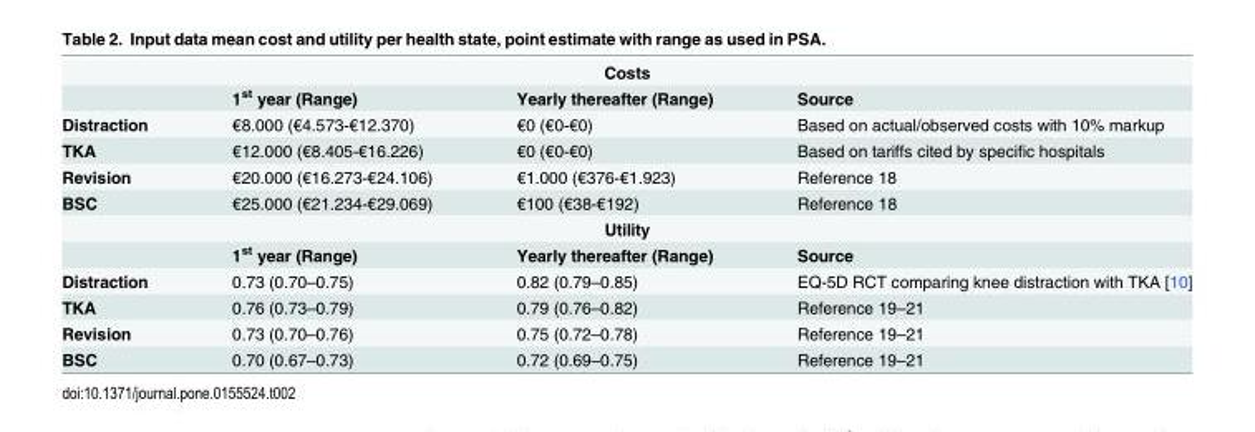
<table><tbody><tr><td colspan="4">Costs</td></tr><tr><td></td><td>1<sup>st</sup> year (Range)</td><td>Yearly thereafter (Range)</td><td>Source</td></tr><tr><td>Distraction</td><td>€8.000 (€4.573-€12.370)</td><td>€0 (€0-€0)</td><td>Based on actual/observed costs with 10% markup</td></tr><tr><td>TKA</td><td>€12.000 (€8.405-€16.226)</td><td>€0 (€0-€0)</td><td>Based on tariffs cited by specific hospitals</td></tr><tr><td>Revision</td><td>€20.000 (€16.273-€24.106)</td><td>€1.000 (€376-€1.923)</td><td>Reference 18</td></tr><tr><td>BSC</td><td>€25.000 (€21.234-€29.069)</td><td>€100 (€38-€192)</td><td>Reference 18</td></tr><tr><td colspan="4">Utility</td></tr><tr><td></td><td>1<sup>st</sup> year (Range)</td><td>Yearly thereafter (Range)</td><td>Source</td></tr><tr><td>Distraction</td><td>0.73 (0.70–0.75)</td><td>0.82 (0.79–0.85)</td><td>EQ-5D RCT comparing knee distraction with TKA [10]</td></tr><tr><td>TKA</td><td>0.76 (0.73–0.79)</td><td>0.79 (0.76–0.82)</td><td>Reference 19–21</td></tr><tr><td>Revision</td><td>0.73 (0.70–0.76)</td><td>0.75 (0.72–0.78)</td><td>Reference 19–21</td></tr><tr><td>BSC</td><td>0.70 (0.67–0.73)</td><td>0.72 (0.69–0.75)</td><td>Reference 19–21</td></tr></tbody></table>